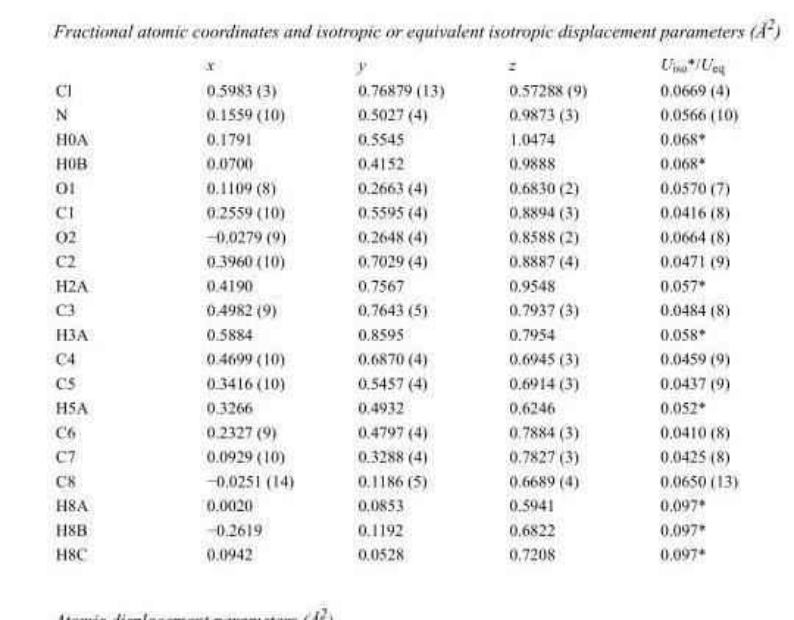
<table><thead><tr><td></td><td>x</td><td>y</td><td>z</td><td>U<sub>iso</sub>*/U<sub>eq</sub></td></tr></thead><tbody><tr><td>Cl</td><td>0.5983 (3)</td><td>0.76879 (13)</td><td>0.57288 (9)</td><td>0.0669 (4)</td></tr><tr><td>N</td><td>0.1559 (10)</td><td>0.5027 (4)</td><td>0.9873 (3)</td><td>0.0566 (10)</td></tr><tr><td>H0A</td><td>0.1791</td><td>0.5545</td><td>1.0474</td><td>0.068*</td></tr><tr><td>H0B</td><td>0.0700</td><td>0.4152</td><td>0.9888</td><td>0.068*</td></tr><tr><td>O1</td><td>0.1109 (8)</td><td>0.2663 (4)</td><td>0.6830 (2)</td><td>0.0570 (7)</td></tr><tr><td>C1</td><td>0.2559 (10)</td><td>0.5595 (4)</td><td>0.8894 (3)</td><td>0.0416 (8)</td></tr><tr><td>O2</td><td>−0.0279 (9)</td><td>0.2648 (4)</td><td>0.8588 (2)</td><td>0.0664 (8)</td></tr><tr><td>C2</td><td>0.3960 (10)</td><td>0.7029 (4)</td><td>0.8887 (4)</td><td>0.0471 (9)</td></tr><tr><td>H2A</td><td>0.4190</td><td>0.7567</td><td>0.9548</td><td>0.057*</td></tr><tr><td>C3</td><td>0.4982 (9)</td><td>0.7643 (5)</td><td>0.7937 (3)</td><td>0.0484 (8)</td></tr><tr><td>H3A</td><td>0.5884</td><td>0.8595</td><td>0.7954</td><td>0.058*</td></tr><tr><td>C4</td><td>0.4699 (10)</td><td>0.6870 (4)</td><td>0.6945 (3)</td><td>0.0459 (9)</td></tr><tr><td>C5</td><td>0.3416 (10)</td><td>0.5457 (4)</td><td>0.6914 (3)</td><td>0.0437 (9)</td></tr><tr><td>H5A</td><td>0.3266</td><td>0.4932</td><td>0.6246</td><td>0.052*</td></tr><tr><td>C6</td><td>0.2327 (9)</td><td>0.4797 (4)</td><td>0.7884 (3)</td><td>0.0410 (8)</td></tr><tr><td>C7</td><td>0.0929 (10)</td><td>0.3288 (4)</td><td>0.7827 (3)</td><td>0.0425 (8)</td></tr><tr><td>C8</td><td>−0.0251 (14)</td><td>0.1186 (5)</td><td>0.6689 (4)</td><td>0.0650 (13)</td></tr><tr><td>H8A</td><td>0.0020</td><td>0.0853</td><td>0.5941</td><td>0.097*</td></tr><tr><td>H8B</td><td>−0.2619</td><td>0.1192</td><td>0.6822</td><td>0.097*</td></tr><tr><td>H8C</td><td>0.0942</td><td>0.0528</td><td>0.7208</td><td>0.097*</td></tr></tbody></table>